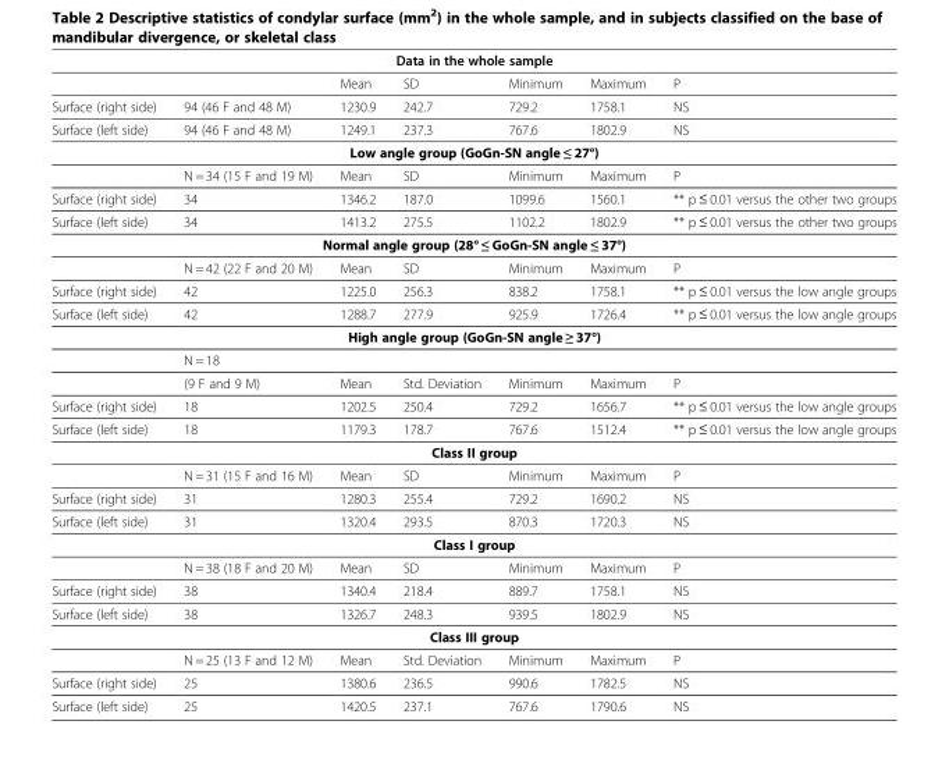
<table><thead><tr><td colspan="7">Data in the whole sample</td></tr><tr><td></td><td></td><td>Mean</td><td>SD</td><td>Minimum</td><td>Maximum</td><td>P</td></tr></thead><tbody><tr><td>Surface (right side)</td><td>94 (46 F and 48 M)</td><td>1230.9</td><td>242.7</td><td>729.2</td><td>1758.1</td><td>NS</td></tr><tr><td>Surface (left side)</td><td>94 (46 F and 48 M)</td><td>1249.1</td><td>237.3</td><td>767.6</td><td>1802.9</td><td>NS</td></tr><tr><td colspan="7">Low angle group (GoGn-SN angle ≤ 27°)</td></tr><tr><td></td><td>N = 34 (15 F and 19 M)</td><td>Mean</td><td>SD</td><td>Minimum</td><td>Maximum</td><td>P</td></tr><tr><td>Surface (right side)</td><td>34</td><td>1346.2</td><td>187.0</td><td>1099.6</td><td>1560.1</td><td>** p ≤ 0.01 versus the other two groups</td></tr><tr><td>Surface (left side)</td><td>34</td><td>1413.2</td><td>275.5</td><td>1102.2</td><td>1802.9</td><td>** p ≤ 0.01 versus the other two groups</td></tr><tr><td colspan="7">Normal angle group (28° ≤ GoGn-SN angle ≤ 37°)</td></tr><tr><td></td><td>N = 42 (22 F and 20 M)</td><td>Mean</td><td>SD</td><td>Minimum</td><td>Maximum</td><td>P</td></tr><tr><td>Surface (right side)</td><td>42</td><td>1225.0</td><td>256.3</td><td>838.2</td><td>1758.1</td><td>** p ≤ 0.01 versus the low angle groups</td></tr><tr><td>Surface (left side)</td><td>42</td><td>1288.7</td><td>277.9</td><td>925.9</td><td>1726.4</td><td>** p ≤ 0.01 versus the low angle groups</td></tr><tr><td colspan="7">High angle group (GoGn-SN angle ≥ 37°)</td></tr><tr><td></td><td>N = 18</td><td></td><td></td><td></td><td></td><td></td></tr><tr><td></td><td>(9 F and 9 M)</td><td>Mean</td><td>Std. Deviation</td><td>Minimum</td><td>Maximum</td><td>P</td></tr><tr><td>Surface (right side)</td><td>18</td><td>1202.5</td><td>250.4</td><td>729.2</td><td>1656.7</td><td>** p ≤ 0.01 versus the low angle groups</td></tr><tr><td>Surface (left side)</td><td>18</td><td>1179.3</td><td>178.7</td><td>767.6</td><td>1512.4</td><td>** p ≤ 0.01 versus the low angle groups</td></tr><tr><td colspan="7">Class II group</td></tr><tr><td></td><td>N = 31 (15 F and 16 M)</td><td>Mean</td><td>SD</td><td>Minimum</td><td>Maximum</td><td>P</td></tr><tr><td>Surface (right side)</td><td>31</td><td>1280.3</td><td>255.4</td><td>729.2</td><td>1690.2</td><td>NS</td></tr><tr><td>Surface (left side)</td><td>31</td><td>1320.4</td><td>293.5</td><td>870.3</td><td>1720.3</td><td>NS</td></tr><tr><td colspan="7">Class I group</td></tr><tr><td></td><td>N = 38 (18 F and 20 M)</td><td>Mean</td><td>SD</td><td>Minimum</td><td>Maximum</td><td>P</td></tr><tr><td>Surface (right side)</td><td>38</td><td>1340.4</td><td>218.4</td><td>889.7</td><td>1758.1</td><td>NS</td></tr><tr><td>Surface (left side)</td><td>38</td><td>1326.7</td><td>248.3</td><td>939.5</td><td>1802.9</td><td>NS</td></tr><tr><td colspan="7">Class III group</td></tr><tr><td></td><td>N = 25 (13 F and 12 M)</td><td>Mean</td><td>Std. Deviation</td><td>Minimum</td><td>Maximum</td><td>P</td></tr><tr><td>Surface (right side)</td><td>25</td><td>1380.6</td><td>236.5</td><td>990.6</td><td>1782.5</td><td>NS</td></tr><tr><td>Surface (left side)</td><td>25</td><td>1420.5</td><td>237.1</td><td>767.6</td><td>1790.6</td><td>NS</td></tr></tbody></table>